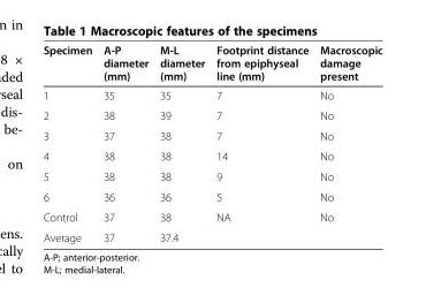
<table><thead><tr><td>Specimen</td><td>A-P diameter (mm)</td><td>M-L diameter (mm)</td><td>Footprint distance from epiphyseal line (mm)</td><td>Macroscopic damage present</td></tr></thead><tbody><tr><td>1</td><td>35</td><td>35</td><td>7</td><td>No</td></tr><tr><td>2</td><td>38</td><td>39</td><td>7</td><td>No</td></tr><tr><td>3</td><td>37</td><td>38</td><td>7</td><td>No</td></tr><tr><td>4</td><td>38</td><td>38</td><td>14</td><td>No</td></tr><tr><td>5</td><td>38</td><td>38</td><td>9</td><td>No</td></tr><tr><td>6</td><td>36</td><td>36</td><td>5</td><td>No</td></tr><tr><td>Control</td><td>37</td><td>38</td><td>NA</td><td>No</td></tr><tr><td>Average</td><td>37</td><td>37.4</td><td></td><td></td></tr></tbody></table>